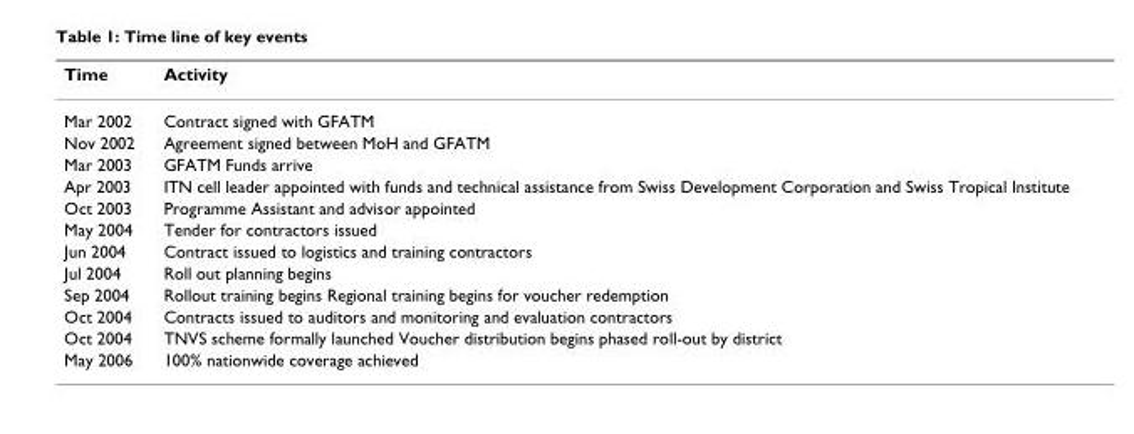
<table><thead><tr><td>Time</td><td>Activity</td></tr></thead><tbody><tr><td>Mar 2002</td><td>Contract signed with GFATM</td></tr><tr><td>Nov 2002</td><td>Agreement signed between MoH and GFATM</td></tr><tr><td>Mar 2003</td><td>GFATM Funds arrive</td></tr><tr><td>Apr 2003</td><td>ITN cell leader appointed with funds and technical assistance from Swiss Development Corporation and Swiss Tropical Institute</td></tr><tr><td>Oct 2003</td><td>Programme Assistant and advisor appointed</td></tr><tr><td>May 2004</td><td>Tender for contractors issued</td></tr><tr><td>Jun 2004</td><td>Contract issued to logistics and training contractors</td></tr><tr><td>Jul 2004</td><td>Roll out planning begins</td></tr><tr><td>Sep 2004</td><td>Rollout training begins Regional training begins for voucher redemption</td></tr><tr><td>Oct 2004</td><td>Contracts issued to auditors and monitoring and evaluation contractors</td></tr><tr><td>Oct 2004</td><td>TNVS scheme formally launched Voucher distribution begins phased roll-out by district</td></tr><tr><td>May 2006</td><td>100% nationwide coverage achieved</td></tr></tbody></table>